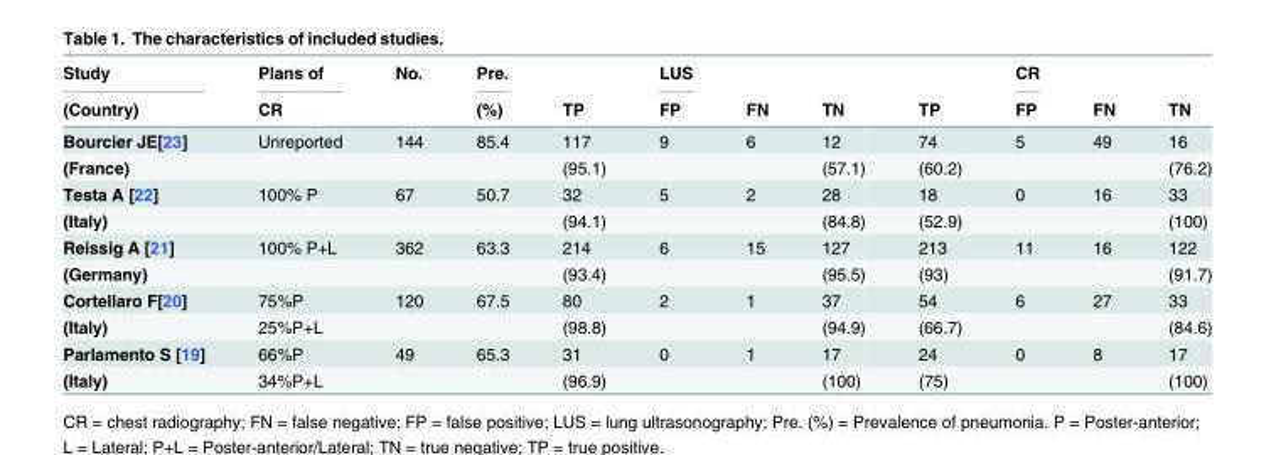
<table><thead><tr><td rowspan="2">Study (Country)</td><td rowspan="2">Plans of CR</td><td rowspan="2">No.</td><td rowspan="2">Pre. (%)</td><td rowspan="2">TP</td><td rowspan="2">LUS FP</td><td rowspan="2">FN</td><td rowspan="2">TN</td><td rowspan="2">TP</td><td rowspan="2">CR FP</td><td rowspan="2">FN</td><td rowspan="2">TN</td></tr><tr></tr></thead><tbody><tr><td>Bourcier JE[23]</td><td>Unreported</td><td>144</td><td>85.4</td><td>117</td><td>9</td><td>6</td><td>12</td><td>74</td><td>5</td><td>49</td><td>16</td></tr><tr><td>(France)</td><td></td><td></td><td></td><td>(95.1)</td><td></td><td></td><td>(57.1)</td><td>(60.2)</td><td></td><td></td><td>(76.2)</td></tr><tr><td>Testa A [22]</td><td>100% P</td><td>67</td><td>50.7</td><td>32</td><td>5</td><td>2</td><td>28</td><td>18</td><td>0</td><td>16</td><td>33</td></tr><tr><td>(Italy)</td><td></td><td></td><td></td><td>(94.1)</td><td></td><td></td><td>(84.8)</td><td>(52.9)</td><td></td><td></td><td>(100)</td></tr><tr><td>Reissig A [21]</td><td>100% P+L</td><td>362</td><td>63.3</td><td>214</td><td>6</td><td>15</td><td>127</td><td>213</td><td>11</td><td>16</td><td>122</td></tr><tr><td>(Germany)</td><td></td><td></td><td></td><td>(93.4)</td><td></td><td></td><td>(95.5)</td><td>(93)</td><td></td><td></td><td>(91.7)</td></tr><tr><td>Cortellaro F[20]</td><td>75%P</td><td>120</td><td>67.5</td><td>80</td><td>2</td><td>1</td><td>37</td><td>54</td><td>6</td><td>27</td><td>33</td></tr><tr><td>(Italy)</td><td>25%P+L</td><td></td><td></td><td>(98.8)</td><td></td><td></td><td>(94.9)</td><td>(66.7)</td><td></td><td></td><td>(84.6)</td></tr><tr><td>Parlamento S [19]</td><td>66%P</td><td>49</td><td>65.3</td><td>31</td><td>0</td><td>1</td><td>17</td><td>24</td><td>0</td><td>8</td><td>17</td></tr><tr><td>(Italy)</td><td>34%P+L</td><td></td><td></td><td>(96.9)</td><td></td><td></td><td>(100)</td><td>(75)</td><td></td><td></td><td>(100)</td></tr></tbody></table>